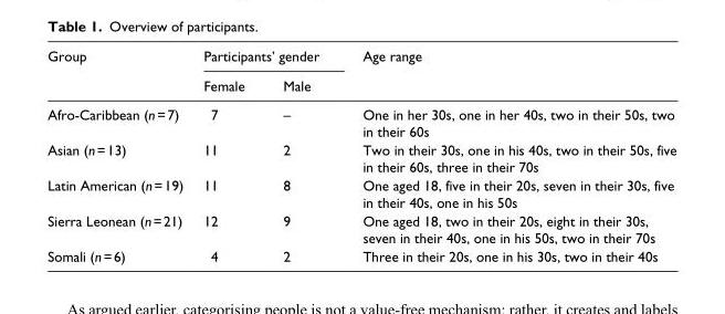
<table><thead><tr><td rowspan="2">Group</td><td colspan="2">Participants’ gender</td><td rowspan="2">Age range</td></tr><tr><td>Female</td><td>Male</td></tr></thead><tbody><tr><td>Afro-Caribbean (n = 7)</td><td>7</td><td>–</td><td>One in her 30s, one in her 40s, two in their 50s, two in their 60s</td></tr><tr><td>Asian (n = 13)</td><td>11</td><td>2</td><td>Two in their 30s, one in his 40s, two in their 50s, five in their 60s, three in their 70s</td></tr><tr><td>Latin American (n = 19)</td><td>11</td><td>8</td><td>One aged 18, five in their 20s, seven in their 30s, five in their 40s, one in his 50s</td></tr><tr><td>Sierra Leonean (n = 21)</td><td>12</td><td>9</td><td>One aged 18, two in their 20s, eight in their 30s, seven in their 40s, one in his 50s, two in their 70s</td></tr><tr><td>Somali (n = 6)</td><td>4</td><td>2</td><td>Three in their 20s, one in his 30s, two in their 40s</td></tr></tbody></table>